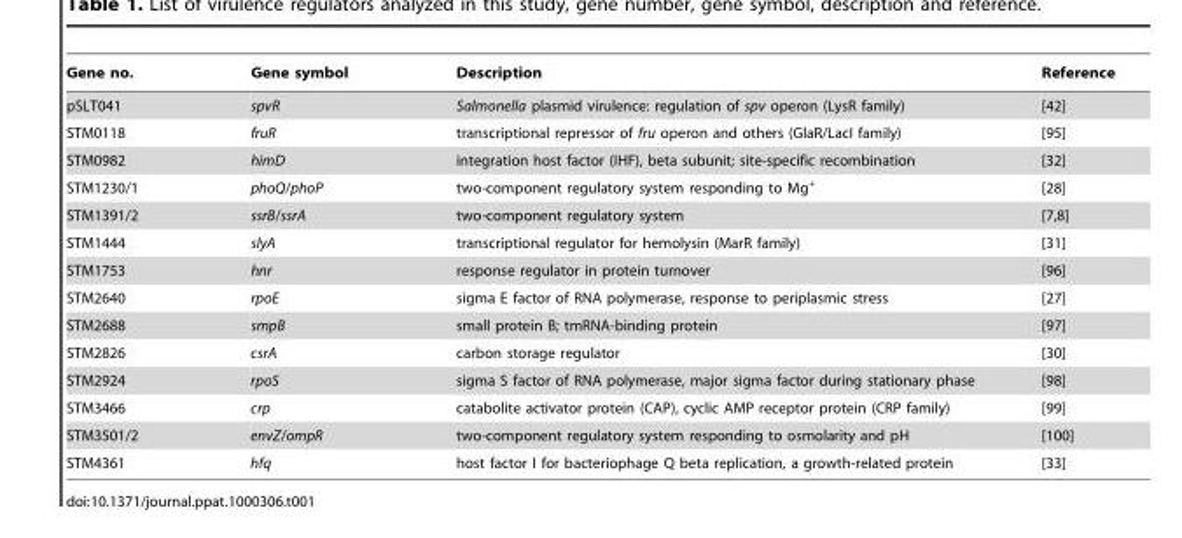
<table><thead><tr><td>Gene no.</td><td>Gene symbol</td><td>Description</td><td>Reference</td></tr></thead><tbody><tr><td>pSLT041</td><td>spvR</td><td>Salmonella plasmid virulence: regulation of spv operon (LysR family)</td><td>[42]</td></tr><tr><td>STM0118</td><td>fruR</td><td>transcriptional repressor of fru operon and others (GlaR/LacI family)</td><td>[95]</td></tr><tr><td>STM0982</td><td>himD</td><td>integration host factor (IHF), beta subunit; site-specific recombination</td><td>[32]</td></tr><tr><td>STM1230/1</td><td>phoQ/phoP</td><td>two-component regulatory system responding to Mg<sup>+</sup></td><td>[28]</td></tr><tr><td>STM1391/2</td><td>ssrB/ssrA</td><td>two-component regulatory system</td><td>[7,8]</td></tr><tr><td>STM1444</td><td>slyA</td><td>transcriptional regulator for hemolysin (MarR family)</td><td>[31]</td></tr><tr><td>STM1753</td><td>hnr</td><td>response regulator in protein turnover</td><td>[96]</td></tr><tr><td>STM2640</td><td>rpoE</td><td>sigma E factor of RNA polymerase, response to periplasmic stress</td><td>[27]</td></tr><tr><td>STM2688</td><td>smpB</td><td>small protein B; tmRNA-binding protein</td><td>[97]</td></tr><tr><td>STM2826</td><td>csrA</td><td>carbon storage regulator</td><td>[30]</td></tr><tr><td>STM2924</td><td>rpoS</td><td>sigma S factor of RNA polymerase, major sigma factor during stationary phase</td><td>[98]</td></tr><tr><td>STM3466</td><td>crp</td><td>catabolite activator protein (CAP), cyclic AMP receptor protein (CRP family)</td><td>[99]</td></tr><tr><td>STM3501/2</td><td>envZ/ompR</td><td>two-component regulatory system responding to osmolarity and pH</td><td>[100]</td></tr><tr><td>STM4361</td><td>hfq</td><td>host factor I for bacteriophage Q beta replication, a growth-related protein</td><td>[33]</td></tr></tbody></table>